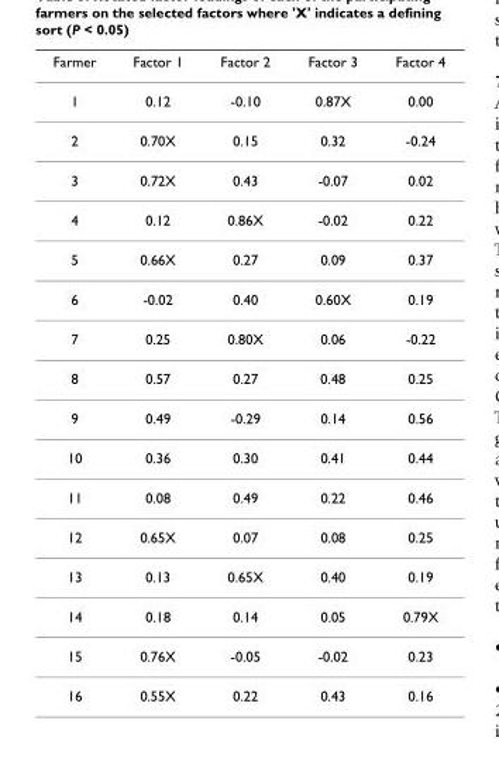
<table><thead><tr><td>Farmer</td><td>Factor 1</td><td>Factor 2</td><td>Factor 3</td><td>Factor 4</td></tr></thead><tbody><tr><td>1</td><td>0.12</td><td>-0.10</td><td>0.87X</td><td>0.00</td></tr><tr><td>2</td><td>0.70X</td><td>0.15</td><td>0.32</td><td>-0.24</td></tr><tr><td>3</td><td>0.72X</td><td>0.43</td><td>-0.07</td><td>0.02</td></tr><tr><td>4</td><td>0.12</td><td>0.86X</td><td>-0.02</td><td>0.22</td></tr><tr><td>5</td><td>0.66X</td><td>0.27</td><td>0.09</td><td>0.37</td></tr><tr><td>6</td><td>-0.02</td><td>0.40</td><td>0.60X</td><td>0.19</td></tr><tr><td>7</td><td>0.25</td><td>0.80X</td><td>0.06</td><td>-0.22</td></tr><tr><td>8</td><td>0.57</td><td>0.27</td><td>0.48</td><td>0.25</td></tr><tr><td>9</td><td>0.49</td><td>-0.29</td><td>0.14</td><td>0.56</td></tr><tr><td>10</td><td>0.36</td><td>0.30</td><td>0.41</td><td>0.44</td></tr><tr><td>11</td><td>0.08</td><td>0.49</td><td>0.22</td><td>0.46</td></tr><tr><td>12</td><td>0.65X</td><td>0.07</td><td>0.08</td><td>0.25</td></tr><tr><td>13</td><td>0.13</td><td>0.65X</td><td>0.40</td><td>0.19</td></tr><tr><td>14</td><td>0.18</td><td>0.14</td><td>0.05</td><td>0.79X</td></tr><tr><td>15</td><td>0.76X</td><td>-0.05</td><td>-0.02</td><td>0.23</td></tr><tr><td>16</td><td>0.55X</td><td>0.22</td><td>0.43</td><td>0.16</td></tr></tbody></table>